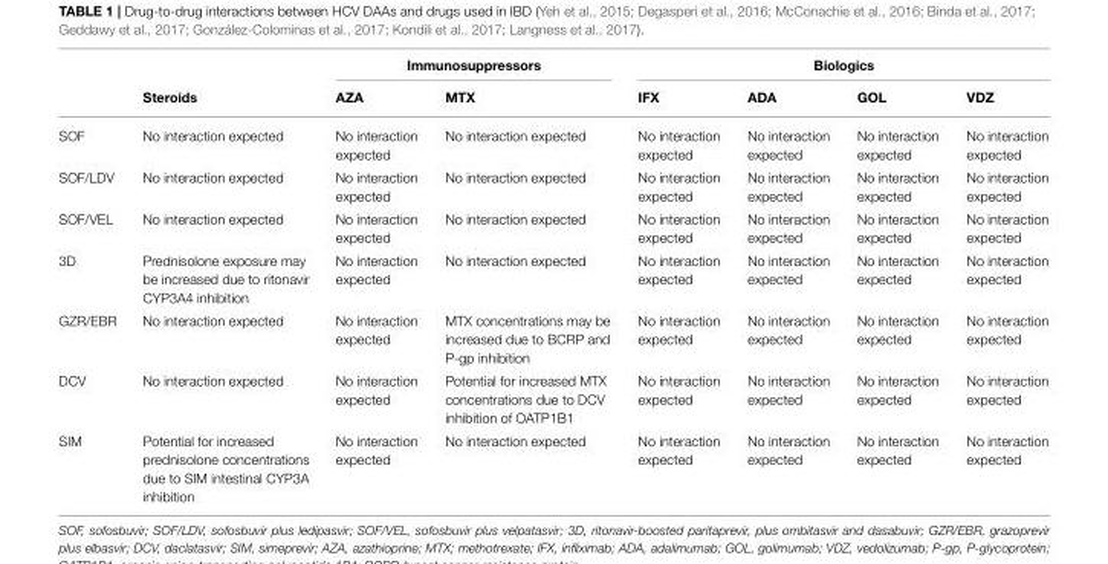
<table><thead><tr><td rowspan="2"></td><td rowspan="2">Steroids</td><td colspan="2">Immunosuppressors</td><td colspan="4">Biologics</td></tr><tr><td>AZA</td><td>MTX</td><td>IFX</td><td>ADA</td><td>GOL</td><td>VDZ</td></tr></thead><tbody><tr><td>SOF</td><td>No interaction expected</td><td>No interaction expected</td><td>No interaction expected</td><td>No interaction expected</td><td>No interaction expected</td><td>No interaction expected</td><td>No interaction expected</td></tr><tr><td>SOF/LDV</td><td>No interaction expected</td><td>No interaction expected</td><td>No interaction expected</td><td>No interaction expected</td><td>No interaction expected</td><td>No interaction expected</td><td>No interaction expected</td></tr><tr><td>SOF/VEL</td><td>No interaction expected</td><td>No interaction expected</td><td>No interaction expected</td><td>No interaction expected</td><td>No interaction expected</td><td>No interaction expected</td><td>No interaction expected</td></tr><tr><td>3D</td><td>Prednisolone exposure may be increased due to ritonavir CYP3A4 inhibition</td><td>No interaction expected</td><td>No interaction expected</td><td>No interaction expected</td><td>No interaction expected</td><td>No interaction expected</td><td>No interaction expected</td></tr><tr><td>GZR/EBR</td><td>No interaction expected</td><td>No interaction expected</td><td>MTX concentrations may be increased due to BCRP and P-gp inhibition</td><td>No interaction expected</td><td>No interaction expected</td><td>No interaction expected</td><td>No interaction expected</td></tr><tr><td>DCV</td><td>No interaction expected</td><td>No interaction expected</td><td>Potential for increased MTX concentrations due to DCV inhibition of OATP1B1</td><td>No interaction expected</td><td>No interaction expected</td><td>No interaction expected</td><td>No interaction expected</td></tr><tr><td>SIM</td><td>Potential for increased prednisolone concentrations due to SIM intestinal CYP3A inhibition</td><td>No interaction expected</td><td>No interaction expected</td><td>No interaction expected</td><td>No interaction expected</td><td>No interaction expected</td><td>No interaction expected</td></tr></tbody></table>